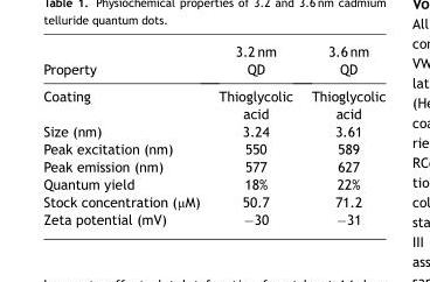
<table><thead><tr><td>Property</td><td>3.2 nm QD</td><td>3.6 nm QD</td></tr></thead><tbody><tr><td>Coating</td><td>Thioglycolic acid</td><td>Thioglycolic acid</td></tr><tr><td>Size (nm)</td><td>3.24</td><td>3.61</td></tr><tr><td>Peak excitation (nm)</td><td>550</td><td>589</td></tr><tr><td>Peak emission (nm)</td><td>577</td><td>627</td></tr><tr><td>Quantum yield</td><td>18%</td><td>22%</td></tr><tr><td>Stock concentration (μM)</td><td>50.7</td><td>71.2</td></tr><tr><td>Zeta potential (mV)</td><td>−30</td><td>−31</td></tr></tbody></table>